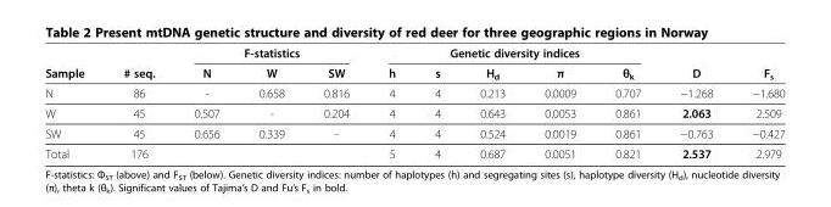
<table><thead><tr><td rowspan="2">Sample</td><td rowspan="2"># seq.</td><td colspan="3">F-statistics</td><td colspan="5">Genetic diversity indices</td><td rowspan="2">D</td><td rowspan="2">F<sub>s</sub></td></tr><tr><td>N</td><td>W</td><td>SW</td><td>h</td><td>s</td><td>H<sub>d</sub></td><td>π</td><td>θ<sub>k</sub></td></tr></thead><tbody><tr><td>N</td><td>86</td><td>-</td><td>0.658</td><td>0.816</td><td>4</td><td>4</td><td>0.213</td><td>0.0009</td><td>0.707</td><td>−1.268</td><td>−1.680</td></tr><tr><td>W</td><td>45</td><td>0.507</td><td>-</td><td>0.204</td><td>4</td><td>4</td><td>0.643</td><td>0.0053</td><td>0.861</td><td>2.063</td><td>2.509</td></tr><tr><td>SW</td><td>45</td><td>0.656</td><td>0.339</td><td>-</td><td>4</td><td>4</td><td>0.524</td><td>0.0019</td><td>0.861</td><td>−0.763</td><td>−0.427</td></tr><tr><td>Total</td><td>176</td><td></td><td></td><td></td><td>5</td><td>4</td><td>0.687</td><td>0.0051</td><td>0.821</td><td>2.537</td><td>2.979</td></tr></tbody></table>